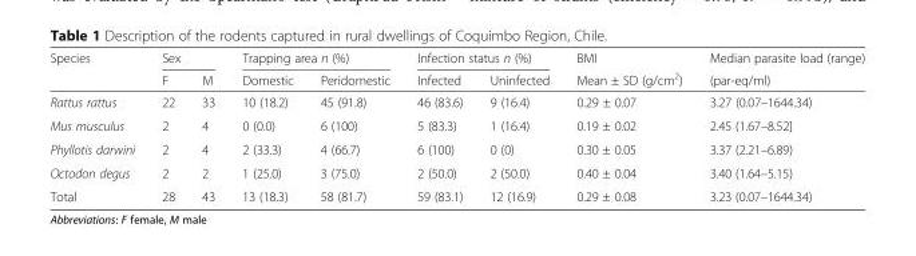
<table><thead><tr><td rowspan="2">Species</td><td colspan="2">Sex</td><td colspan="2">Trapping area n (%)</td><td colspan="2">Infection status n (%)</td><td rowspan="2">BMI Mean ± SD (g/cm<sup>2</sup>)</td><td rowspan="2">Median parasite load (range) (par-eq/ml)</td></tr><tr><td>F</td><td>M</td><td>Domestic</td><td>Peridomestic</td><td>Infected</td><td>Uninfected</td></tr></thead><tbody><tr><td>Rattus rattus</td><td>22</td><td>33</td><td>10 (18.2)</td><td>45 (91.8)</td><td>46 (83.6)</td><td>9 (16.4)</td><td>0.29 ± 0.07</td><td>3.27 (0.07–1644.34)</td></tr><tr><td>Mus musculus</td><td>2</td><td>4</td><td>0 (0.0)</td><td>6 (100)</td><td>5 (83.3)</td><td>1 (16.4)</td><td>0.19 ± 0.02</td><td>2.45 (1.67–8.52]</td></tr><tr><td>Phyllotis darwini</td><td>2</td><td>4</td><td>2 (33.3)</td><td>4 (66.7)</td><td>6 (100)</td><td>0 (0)</td><td>0.30 ± 0.05</td><td>3.37 (2.21–6.89)</td></tr><tr><td>Octodon degus</td><td>2</td><td>2</td><td>1 (25.0)</td><td>3 (75.0)</td><td>2 (50.0)</td><td>2 (50.0)</td><td>0.40 ± 0.04</td><td>3.40 (1.64–5.15)</td></tr><tr><td>Total</td><td>28</td><td>43</td><td>13 (18.3)</td><td>58 (81.7)</td><td>59 (83.1)</td><td>12 (16.9)</td><td>0.29 ± 0.08</td><td>3.23 (0.07–1644.34)</td></tr></tbody></table>